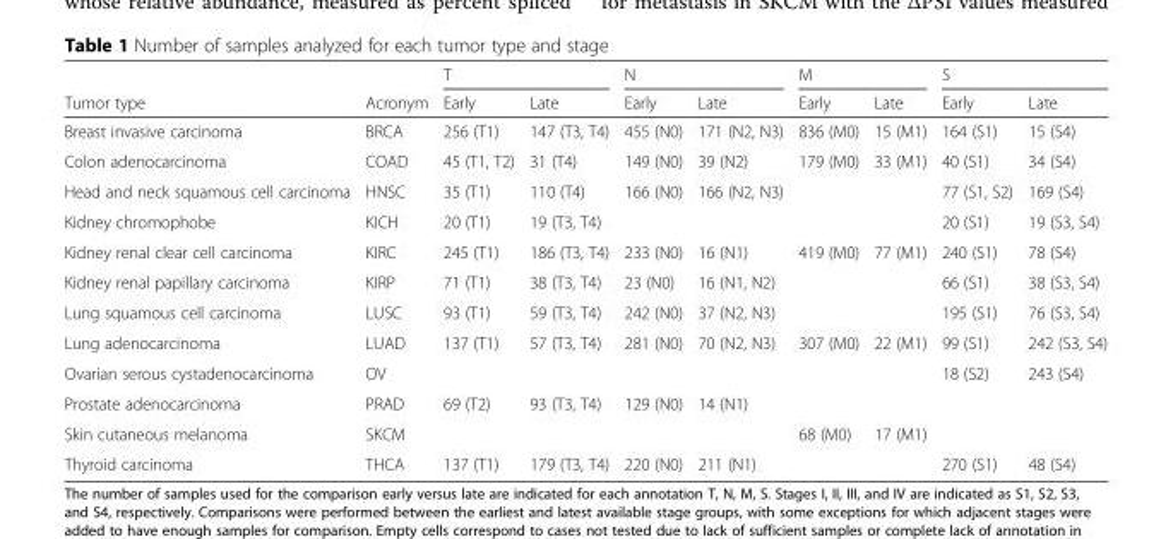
<table><thead><tr><td rowspan="2">Tumor type</td><td rowspan="2">Acronym</td><td colspan="2">T</td><td colspan="2">N</td><td colspan="2">M</td><td colspan="2">S</td></tr><tr><td>Early</td><td>Late</td><td>Early</td><td>Late</td><td>Early</td><td>Late</td><td>Early</td><td>Late</td></tr></thead><tbody><tr><td>Breast invasive carcinoma</td><td>BRCA</td><td>256 (T1)</td><td>147 (T3, T4)</td><td>455 (N0)</td><td>171 (N2, N3)</td><td>836 (M0)</td><td>15 (M1)</td><td>164 (S1)</td><td>15 (S4)</td></tr><tr><td>Colon adenocarcinoma</td><td>COAD</td><td>45 (T1, T2)</td><td>31 (T4)</td><td>149 (N0)</td><td>39 (N2)</td><td>179 (M0)</td><td>33 (M1)</td><td>40 (S1)</td><td>34 (S4)</td></tr><tr><td>Head and neck squamous cell carcinoma</td><td>HNSC</td><td>35 (T1)</td><td>110 (T4)</td><td>166 (N0)</td><td>166 (N2, N3)</td><td></td><td></td><td>77 (S1, S2)</td><td>169 (S4)</td></tr><tr><td>Kidney chromophobe</td><td>KICH</td><td>20 (T1)</td><td>19 (T3, T4)</td><td></td><td></td><td></td><td></td><td>20 (S1)</td><td>19 (S3, S4)</td></tr><tr><td>Kidney renal clear cell carcinoma</td><td>KIRC</td><td>245 (T1)</td><td>186 (T3, T4)</td><td>233 (N0)</td><td>16 (N1)</td><td>419 (M0)</td><td>77 (M1)</td><td>240 (S1)</td><td>78 (S4)</td></tr><tr><td>Kidney renal papillary carcinoma</td><td>KIRP</td><td>71 (T1)</td><td>38 (T3, T4)</td><td>23 (N0)</td><td>16 (N1, N2)</td><td></td><td></td><td>66 (S1)</td><td>38 (S3, S4)</td></tr><tr><td>Lung squamous cell carcinoma</td><td>LUSC</td><td>93 (T1)</td><td>59 (T3, T4)</td><td>242 (N0)</td><td>37 (N2, N3)</td><td></td><td></td><td>195 (S1)</td><td>76 (S3, S4)</td></tr><tr><td>Lung adenocarcinoma</td><td>LUAD</td><td>137 (T1)</td><td>57 (T3, T4)</td><td>281 (N0)</td><td>70 (N2, N3)</td><td>307 (M0)</td><td>22 (M1)</td><td>99 (S1)</td><td>242 (S3, S4)</td></tr><tr><td>Ovarian serous cystadenocarcinoma</td><td>OV</td><td></td><td></td><td></td><td></td><td></td><td></td><td>18 (S2)</td><td>243 (S4)</td></tr><tr><td>Prostate adenocarcinoma</td><td>PRAD</td><td>69 (T2)</td><td>93 (T3, T4)</td><td>129 (N0)</td><td>14 (N1)</td><td></td><td></td><td></td><td></td></tr><tr><td>Skin cutaneous melanoma</td><td>SKCM</td><td></td><td></td><td></td><td></td><td>68 (M0)</td><td>17 (M1)</td><td></td><td></td></tr><tr><td>Thyroid carcinoma</td><td>THCA</td><td>137 (T1)</td><td>179 (T3, T4)</td><td>220 (N0)</td><td>211 (N1)</td><td></td><td></td><td>270 (S1)</td><td>48 (S4)</td></tr></tbody></table>